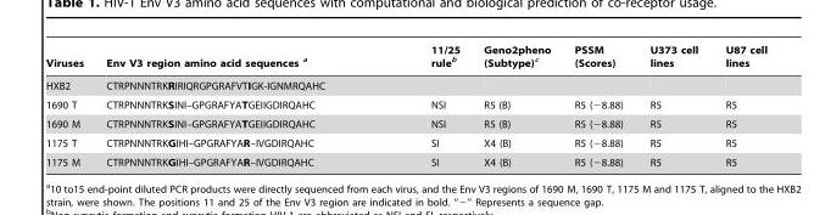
<table><thead><tr><td>Viruses</td><td>Env V3 region amino acid sequences a</td><td>11/25 rule<sup>b</sup></td><td>Geno2pheno (Subtype)<sup>c</sup></td><td>PSSM (Scores)</td><td>U373 cell lines</td><td>U87 cell lines</td></tr></thead><tbody><tr><td>HXB2</td><td>CTRPNNNTRKRIRIQRGPGRAFVTIGK-IGNMRQAHC</td><td></td><td></td><td></td><td></td><td></td></tr><tr><td>1690 T</td><td>CTRPNNNTRKSINI–GPGRAFYATGEIIGDIRQAHC</td><td>NSI</td><td>R5 (B)</td><td>R5 (−8.88)</td><td>R5</td><td>R5</td></tr><tr><td>1690 M</td><td>CTRPNNNTRKSINI–GPGRAFYATGEIIGDIRQAHC</td><td>NSI</td><td>R5 (B)</td><td>R5 (−8.88)</td><td>R5</td><td>R5</td></tr><tr><td>1175 T</td><td>CTRPNNNTRKGIHI–GPGRAFYAR–IVGDIRQAHC</td><td>SI</td><td>X4 (B)</td><td>R5 (−8.88)</td><td>R5</td><td>R5</td></tr><tr><td>1175 M</td><td>CTRPNNNTRKGIHI–GPGRAFYAR–IVGDIRQAHC</td><td>SI</td><td>X4 (B)</td><td>R5 (−8.88)</td><td>R5</td><td>R5</td></tr></tbody></table>